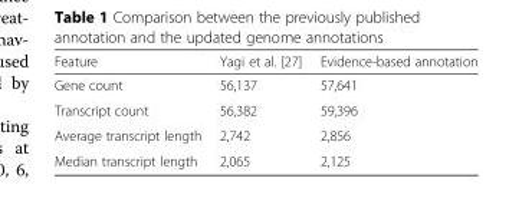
<table><thead><tr><td>Feature</td><td>Yagi et al. [27]</td><td>Evidence-based annotation</td></tr></thead><tbody><tr><td>Gene count</td><td>56,137</td><td>57,641</td></tr><tr><td>Transcript count</td><td>56,382</td><td>59,396</td></tr><tr><td>Average transcript length</td><td>2,742</td><td>2,856</td></tr><tr><td>Median transcript length</td><td>2,065</td><td>2,125</td></tr></tbody></table>